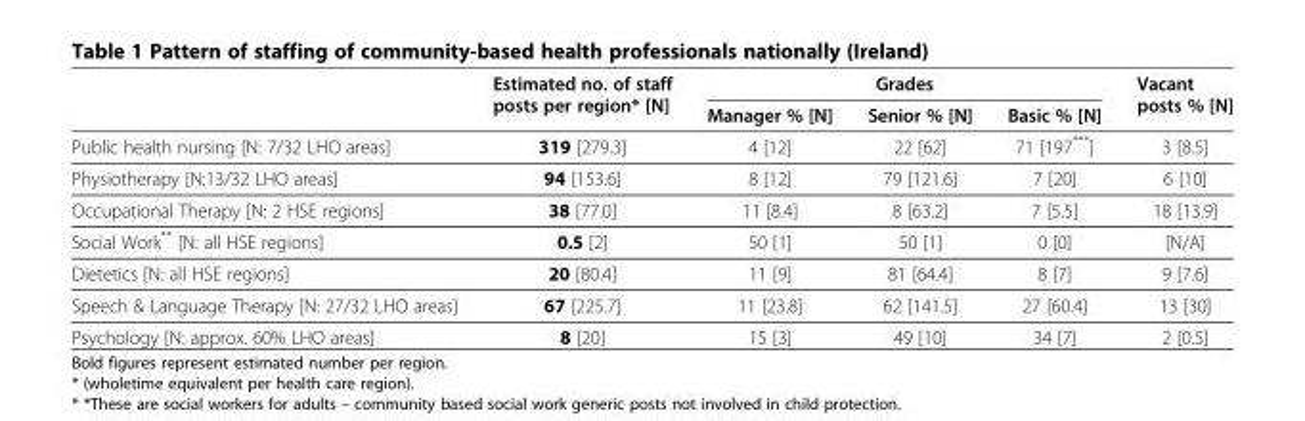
<table><thead><tr><td rowspan="2"></td><td rowspan="2">Estimated no. of staff posts per region* [N]</td><td colspan="3">Grades</td><td rowspan="2">Vacant posts % [N]</td></tr><tr><td>Manager % [N]</td><td>Senior % [N]</td><td>Basic % [N]</td></tr></thead><tbody><tr><td>Public health nursing [N: 7/32 LHO areas]</td><td>319 [279.3]</td><td>4 [12]</td><td>22 [62]</td><td>71 [197***]</td><td>3 [8.5]</td></tr><tr><td>Physiotherapy [N:13/32 LHO areas]</td><td>94 [153.6]</td><td>8 [12]</td><td>79 [121.6]</td><td>7 [20]</td><td>6 [10]</td></tr><tr><td>Occupational Therapy [N: 2 HSE regions]</td><td>38 [77.0]</td><td>11 [8.4]</td><td>8 [63.2]</td><td>7 [5.5]</td><td>18 [13.9]</td></tr><tr><td>Social Work** [N: all HSE regions]</td><td>0.5 [2]</td><td>50 [1]</td><td>50 [1]</td><td>0 [0]</td><td>[N/A]</td></tr><tr><td>Dietetics [N: all HSE regions]</td><td>20 [80.4]</td><td>11 [9]</td><td>81 [64.4]</td><td>8 [7]</td><td>9 [7.6]</td></tr><tr><td>Speech &amp; Language Therapy [N: 27/32 LHO areas]</td><td>67 [225.7]</td><td>11 [23.8]</td><td>62 [141.5]</td><td>27 [60.4]</td><td>13 [30]</td></tr><tr><td>Psychology [N: approx. 60% LHO areas]</td><td>8 [20]</td><td>15 [3]</td><td>49 [10]</td><td>34 [7]</td><td>2 [0.5]</td></tr></tbody></table>